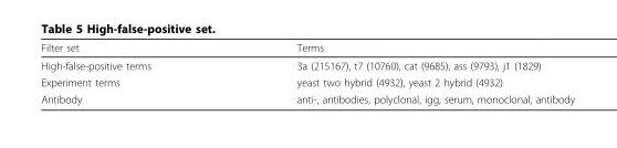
<table><thead><tr><td>Filter set</td><td>Terms</td></tr></thead><tbody><tr><td>High-false-positive terms</td><td>3a (215167), t7 (10760), cat (9685), ass (9793), j1 (1829)</td></tr><tr><td>Experiment terms</td><td>yeast two hybrid (4932), yeast 2 hybrid (4932)</td></tr><tr><td>Antibody</td><td>anti-, antibodies, polyclonal, igg, serum, monoclonal, antibody</td></tr></tbody></table>